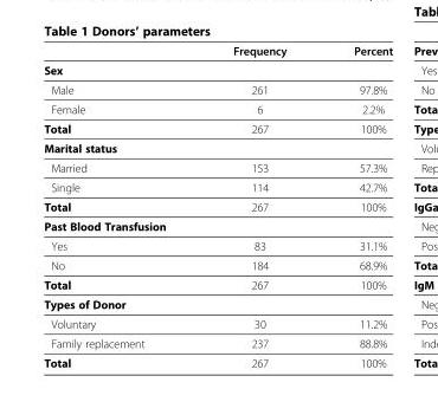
<table><thead><tr><td></td><td>Frequency</td><td>Percent</td></tr></thead><tbody><tr><td colspan="3">Sex</td></tr><tr><td>Male</td><td>261</td><td>97.8%</td></tr><tr><td>Female</td><td>6</td><td>2.2%</td></tr><tr><td>Total</td><td>267</td><td>100%</td></tr><tr><td colspan="3">Marital status</td></tr><tr><td>Married</td><td>153</td><td>57.3%</td></tr><tr><td>Single</td><td>114</td><td>42.7%</td></tr><tr><td>Total</td><td>267</td><td>100%</td></tr><tr><td colspan="3">Past Blood Transfusion</td></tr><tr><td>Yes</td><td>83</td><td>31.1%</td></tr><tr><td>No</td><td>184</td><td>68.9%</td></tr><tr><td>Total</td><td>267</td><td>100%</td></tr><tr><td colspan="3">Types of Donor</td></tr><tr><td>Voluntary</td><td>30</td><td>11.2%</td></tr><tr><td>Family replacement</td><td>237</td><td>88.8%</td></tr><tr><td>Total</td><td>267</td><td>100%</td></tr></tbody></table>